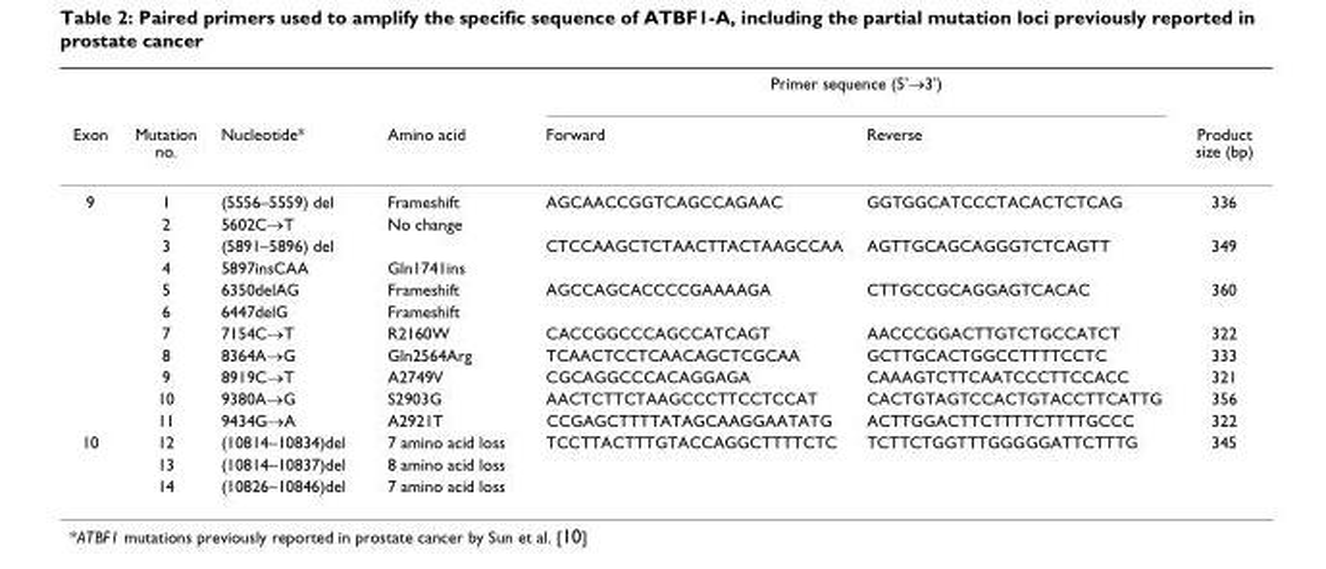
<table><thead><tr><td rowspan="2">Exon</td><td rowspan="2">Mutation no.</td><td rowspan="2">Nucleotide*</td><td rowspan="2">Amino acid</td><td colspan="2">Primer sequence (5&#x27;→3&#x27;)</td><td rowspan="2">Product size (bp)</td></tr><tr><td>Forward</td><td>Reverse</td></tr></thead><tbody><tr><td rowspan="11">9</td><td>1</td><td>(5556–5559) del</td><td>Frameshift</td><td>AGCAACCGGTCAGCCAGAAC</td><td>GGTGGCATCCCTACACTCTCAG</td><td>336</td></tr><tr><td>2</td><td>5602C→T</td><td>No change</td><td></td><td></td><td></td></tr><tr><td>3</td><td>(5891–5896) del</td><td></td><td>CTCCAAGCTCTAACTTACTAAGCCAA</td><td>AGTTGCAGCAGGGTCTCAGTT</td><td>349</td></tr><tr><td>4</td><td>5897insCAA</td><td>Gln1741ins</td><td></td><td></td><td></td></tr><tr><td>5</td><td>6350delAG</td><td>Frameshift</td><td>AGCCAGCACCCCGAAAAGA</td><td>CTTGCCGCAGGAGTCACAC</td><td>360</td></tr><tr><td>6</td><td>6447delG</td><td>Frameshift</td><td></td><td></td><td></td></tr><tr><td>7</td><td>7154C→T</td><td>R2160W</td><td>CACCGGCCCAGCCATCAGT</td><td>AACCCGGACTTGTCTGCCATCT</td><td>322</td></tr><tr><td>8</td><td>8364A→G</td><td>Gln2564Arg</td><td>TCAACTCCTCAACAGCTCGCAA</td><td>GCTTGCACTGGCCTTTTCCTC</td><td>333</td></tr><tr><td>9</td><td>8919C→T</td><td>A2749V</td><td>CGCAGGCCCACAGGAGA</td><td>CAAAGTCTTCAATCCCTTCCACC</td><td>321</td></tr><tr><td>10</td><td>9380A→G</td><td>S2903G</td><td>AACTCTTCTAAGCCCTTCCTCCAT</td><td>CACTGTAGTCCACTGTACCTTCATTG</td><td>356</td></tr><tr><td>11</td><td>9434G→A</td><td>A2921T</td><td>CCGAGCTTTTATAGCAAGGAATATG</td><td>ACTTGGACTTCTTTTCTTTTGCCC</td><td>322</td></tr><tr><td rowspan="3">10</td><td>12</td><td>(10814–10834)del</td><td>7 amino acid loss</td><td>TCCTTACTTTGTACCAGGCTTTTCTC</td><td>TCTTCTGGTTTGGGGGATTCTTTG</td><td>345</td></tr><tr><td>13</td><td>(10814–10837)del</td><td>8 amino acid loss</td><td></td><td></td><td></td></tr><tr><td>14</td><td>(10826–10846)del</td><td>7 amino acid loss</td><td></td><td></td><td></td></tr></tbody></table>